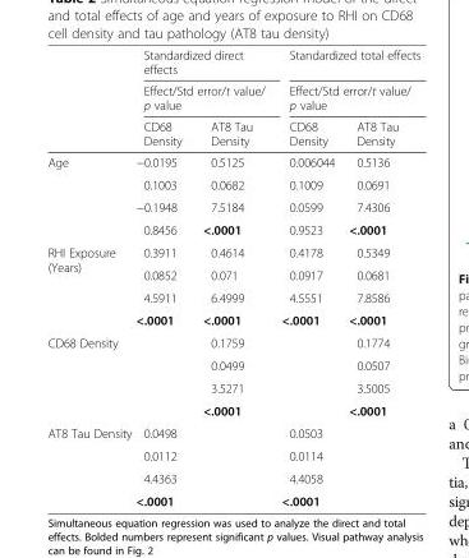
<table><thead><tr><td rowspan="3"></td><td rowspan="2" colspan="2">Standardized direct effects Effect/Std error/t value/ p value</td><td rowspan="2" colspan="2">Standardized total effects Effect/Std error/t value/ p value</td></tr><tr></tr><tr><td>CD68 Density</td><td>AT8 Tau Density</td><td>CD68 Density</td><td>AT8 Tau Density</td></tr></thead><tbody><tr><td rowspan="4">Age</td><td>−0.0195</td><td>0.5125</td><td>0.006044</td><td>0.5136</td></tr><tr><td>0.1003</td><td>0.0682</td><td>0.1009</td><td>0.0691</td></tr><tr><td>−0.1948</td><td>7.5184</td><td>0.0599</td><td>7.4306</td></tr><tr><td>0.8456</td><td>&lt;.0001</td><td>0.9523</td><td>&lt;.0001</td></tr><tr><td rowspan="4">RHI Exposure (Years)</td><td>0.3911</td><td>0.4614</td><td>0.4178</td><td>0.5349</td></tr><tr><td>0.0852</td><td>0.071</td><td>0.0917</td><td>0.0681</td></tr><tr><td>4.5911</td><td>6.4999</td><td>4.5551</td><td>7.8586</td></tr><tr><td>&lt;.0001</td><td>&lt;.0001</td><td>&lt;.0001</td><td>&lt;.0001</td></tr><tr><td rowspan="4">CD68 Density</td><td rowspan="4"></td><td>0.1759</td><td></td><td>0.1774</td></tr><tr><td>0.0499</td><td></td><td>0.0507</td></tr><tr><td>3.5271</td><td></td><td>3.5005</td></tr><tr><td>&lt;.0001</td><td></td><td>&lt;.0001</td></tr><tr><td rowspan="4">AT8 Tau Density</td><td>0.0498</td><td rowspan="4"></td><td>0.0503</td><td></td></tr><tr><td>0.0112</td><td>0.0114</td><td></td></tr><tr><td>4.4363</td><td>4.4058</td><td></td></tr><tr><td>&lt;.0001</td><td>&lt;.0001</td><td></td></tr></tbody></table>